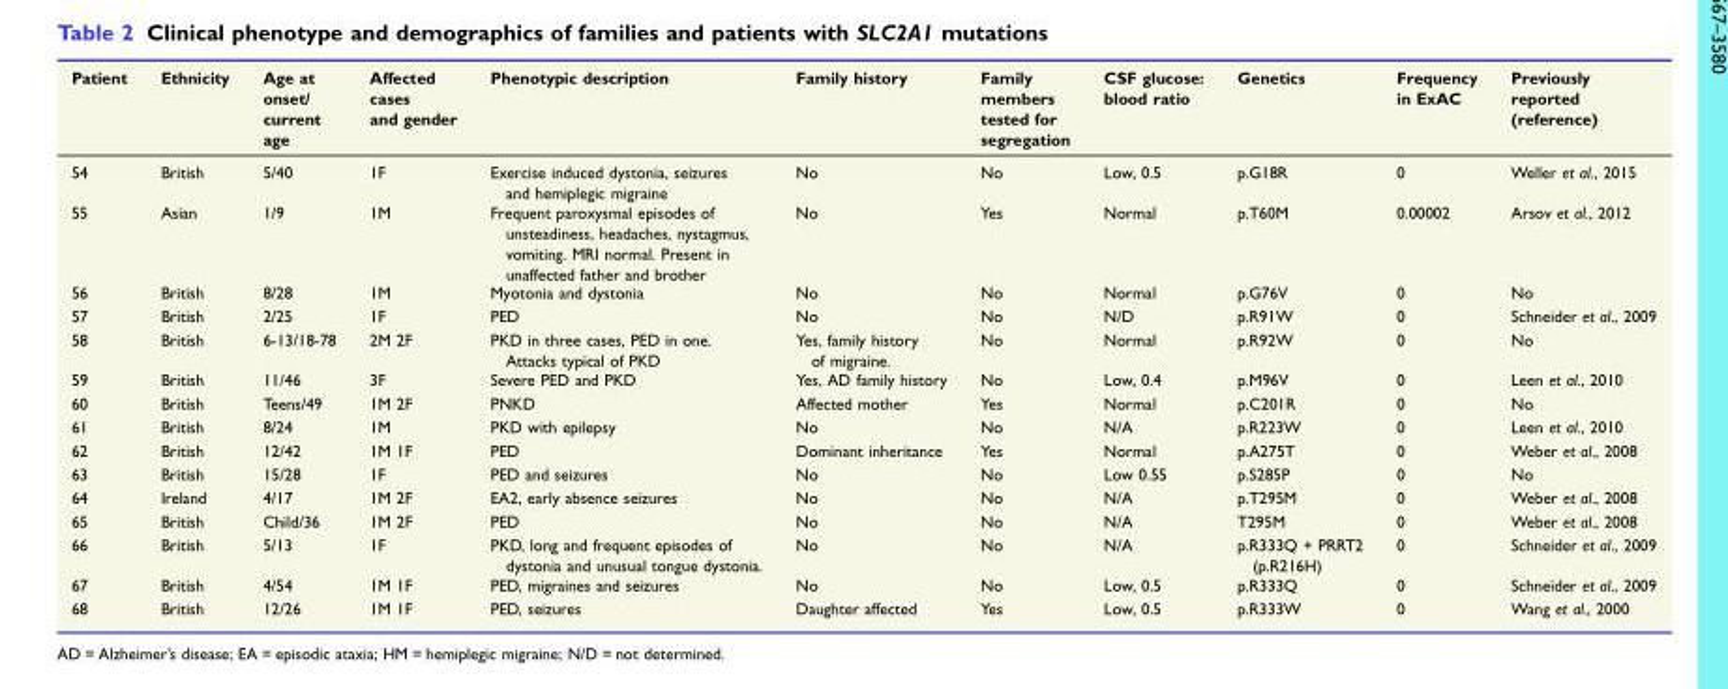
<table><thead><tr><td>Patient</td><td>Ethnicity</td><td>Age at onset/ current age</td><td>Affected cases and gender</td><td>Phenotypic description</td><td>Family history</td><td>Family members tested for segregation</td><td>CSF glucose: blood ratio</td><td>Genetics</td><td>Frequency in ExAC</td><td>Previously reported (reference)</td></tr></thead><tbody><tr><td>54</td><td>British</td><td>5/40</td><td>1F</td><td>Exercise induced dystonia, seizures and hemiplegic migraine</td><td>No</td><td>No</td><td>Low, 0.5</td><td>p.G18R</td><td>0</td><td>Weller et al., 2015</td></tr><tr><td>55</td><td>Asian</td><td>1/9</td><td>1M</td><td>Frequent paroxysmal episodes of unsteadiness, headaches, nystagmus, vomiting. MRI normal. Present in unaffected father and brother</td><td>No</td><td>Yes</td><td>Normal</td><td>p.T60M</td><td>0.00002</td><td>Arsov et al., 2012</td></tr><tr><td>56</td><td>British</td><td>8/28</td><td>1M</td><td>Myotonia and dystonia</td><td>No</td><td>No</td><td>Normal</td><td>p.G76V</td><td>0</td><td>No</td></tr><tr><td>57</td><td>British</td><td>2/25</td><td>1F</td><td>PED</td><td>No</td><td>No</td><td>N/D</td><td>p.R91W</td><td>0</td><td>Schneider et al., 2009</td></tr><tr><td>58</td><td>British</td><td>6-13/18-78</td><td>2M 2F</td><td>PKD in three cases, PED in one. Attacks typical of PKD</td><td>Yes, family history of migraine.</td><td>No</td><td>Normal</td><td>p.R92W</td><td>0</td><td>No</td></tr><tr><td>59</td><td>British</td><td>11/46</td><td>3F</td><td>Severe PED and PKD</td><td>Yes, AD family history</td><td>No</td><td>Low, 0.4</td><td>p.M96V</td><td>0</td><td>Leen et al., 2010</td></tr><tr><td>60</td><td>British</td><td>Teens/49</td><td>1M 2F</td><td>PNKD</td><td>Affected mother</td><td>Yes</td><td>Normal</td><td>p.C201R</td><td>0</td><td>No</td></tr><tr><td>61</td><td>British</td><td>8/24</td><td>1M</td><td>PKD with epilepsy</td><td>No</td><td>No</td><td>N/A</td><td>p.R223W</td><td>0</td><td>Leen et al., 2010</td></tr><tr><td>62</td><td>British</td><td>12/42</td><td>1M 1F</td><td>PED</td><td>Dominant inheritance</td><td>Yes</td><td>Normal</td><td>p.A275T</td><td>0</td><td>Weber et al., 2008</td></tr><tr><td>63</td><td>British</td><td>15/28</td><td>1F</td><td>PED and seizures</td><td>No</td><td>No</td><td>Low 0.55</td><td>p.S285P</td><td>0</td><td>No</td></tr><tr><td>64</td><td>Ireland</td><td>4/17</td><td>1M 2F</td><td>EA2, early absence seizures</td><td>No</td><td>No</td><td>N/A</td><td>p.T295M</td><td>0</td><td>Weber et al., 2008</td></tr><tr><td>65</td><td>British</td><td>Child/36</td><td>1M 2F</td><td>PED</td><td>No</td><td>No</td><td>N/A</td><td>T295M</td><td>0</td><td>Weber et al., 2008</td></tr><tr><td>66</td><td>British</td><td>5/13</td><td>1F</td><td>PKD, long and frequent episodes of dystonia and unusual tongue dystonia.</td><td>No</td><td>No</td><td>N/A</td><td>p.R333Q + PRRT2 (p.R216H)</td><td>0</td><td>Schneider et al., 2009</td></tr><tr><td>67</td><td>British</td><td>4/54</td><td>1M 1F</td><td>PED, migraines and seizures</td><td>No</td><td>No</td><td>Low, 0.5</td><td>p.R333Q</td><td>0</td><td>Schneider et al., 2009</td></tr><tr><td>68</td><td>British</td><td>12/26</td><td>1M 1F</td><td>PED, seizures</td><td>Daughter affected</td><td>Yes</td><td>Low, 0.5</td><td>p.R333W</td><td>0</td><td>Wang et al., 2000</td></tr></tbody></table>